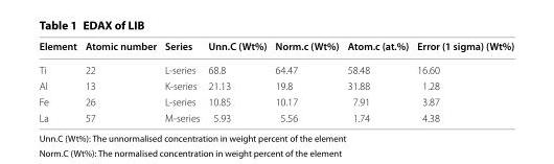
<table><thead><tr><td>Element</td><td>Atomic number</td><td>Series</td><td>Unn.C (Wt%)</td><td>Norm.c (Wt%)</td><td>Atom.c (at.%)</td><td>Error (1 sigma) (Wt%)</td></tr></thead><tbody><tr><td>Ti</td><td>22</td><td>L-series</td><td>68.8</td><td>64.47</td><td>58.48</td><td>16.60</td></tr><tr><td>Al</td><td>13</td><td>K-series</td><td>21.13</td><td>19.8</td><td>31.88</td><td>1.28</td></tr><tr><td>Fe</td><td>26</td><td>L-series</td><td>10.85</td><td>10.17</td><td>7.91</td><td>3.87</td></tr><tr><td>La</td><td>57</td><td>M-series</td><td>5.93</td><td>5.56</td><td>1.74</td><td>4.38</td></tr></tbody></table>